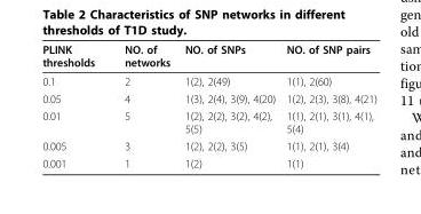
<table><thead><tr><td>PLINK thresholds</td><td>NO. of networks</td><td>NO. of SNPs</td><td>NO. of SNP pairs</td></tr></thead><tbody><tr><td>0.1</td><td>2</td><td>1(2), 2(49)</td><td>1(1), 2(60)</td></tr><tr><td>0.05</td><td>4</td><td>1(3), 2(4), 3(9), 4(20)</td><td>1(2), 2(3), 3(8), 4(21)</td></tr><tr><td>0.01</td><td>5</td><td>1(2), 2(2), 3(2), 4(2), 5(5)</td><td>1(1), 2(1), 3(1), 4(1), 5(4)</td></tr><tr><td>0.005</td><td>3</td><td>1(2), 2(2), 3(5)</td><td>1(1), 2(1), 3(4)</td></tr><tr><td>0.001</td><td>1</td><td>1(2)</td><td>1(1)</td></tr></tbody></table>